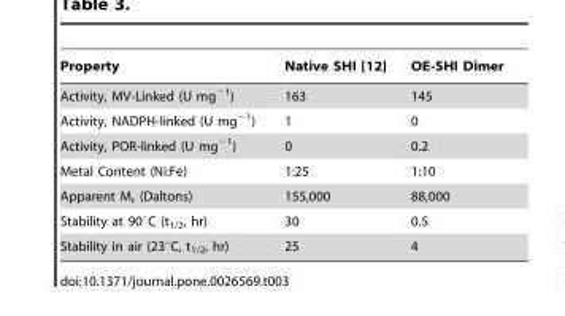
<table><thead><tr><td>Property</td><td>Native SHI [12]</td><td>OE-SHI Dimer</td></tr></thead><tbody><tr><td>Activity, MV-Linked (U mg<sup>−1</sup>)</td><td>163</td><td>145</td></tr><tr><td>Activity, NADPH-linked (U mg<sup>−1</sup>)</td><td>1</td><td>0</td></tr><tr><td>Activity, POR-linked (U mg<sup>−1</sup>)</td><td>0</td><td>0.2</td></tr><tr><td>Metal Content (Ni:Fe)</td><td>1:25</td><td>1:10</td></tr><tr><td>Apparent M<sub>r</sub> (Daltons)</td><td>155,000</td><td>88,000</td></tr><tr><td>Stability at 90°C (t<sub>1/2</sub>, hr)</td><td>30</td><td>0.5</td></tr><tr><td>Stability in air (23°C, t<sub>1/2</sub>, hr)</td><td>25</td><td>4</td></tr></tbody></table>